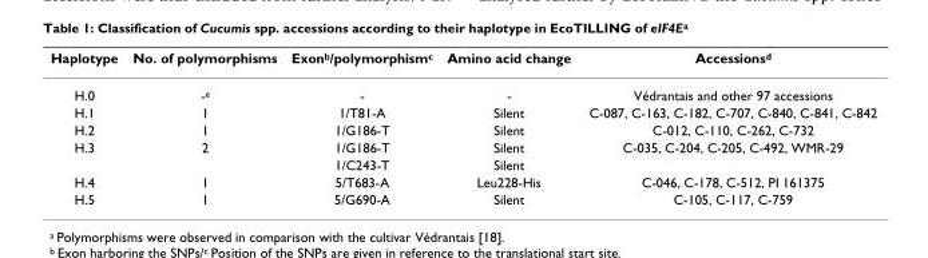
<table><thead><tr><td>Haplotype</td><td>No. of polymorphisms</td><td>Exonb/polymorphismc</td><td>Amino acid change</td><td>Accessions<sup>d</sup></td></tr></thead><tbody><tr><td>H.0</td><td>-<sup>e</sup></td><td>-</td><td>-</td><td>Védrantais and other 97 accessions</td></tr><tr><td>H.1</td><td>1</td><td>1/T81-A</td><td>Silent</td><td>C-087, C-163, C-182, C-707, C-840, C-841, C-842</td></tr><tr><td>H.2</td><td>1</td><td>1/G186-T</td><td>Silent</td><td>C-012, C-110, C-262, C-732</td></tr><tr><td rowspan="2">H.3</td><td>2</td><td>1/G186-T</td><td>Silent</td><td>C-035, C-204, C-205, C-492, WMR-29</td></tr><tr><td></td><td>1/C243-T</td><td>Silent</td><td></td></tr><tr><td>H.4</td><td>1</td><td>5/T683-A</td><td>Leu228-His</td><td>C-046, C-178, C-512, PI 161375</td></tr><tr><td>H.5</td><td>1</td><td>5/G690-A</td><td>Silent</td><td>C-105, C-117, C-759</td></tr></tbody></table>